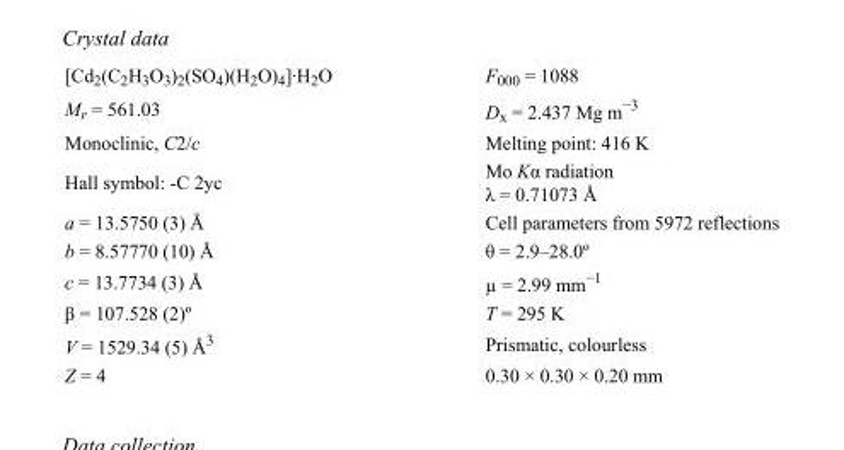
<table><tbody><tr><td>[Cd<sub>2</sub>(C<sub>2</sub>H<sub>3</sub>O<sub>3</sub>)<sub>2</sub>(SO<sub>4</sub>)(H<sub>2</sub>O)<sub>4</sub>]·H<sub>2</sub>O</td><td>F000 = 1088</td></tr><tr><td>M<sub>r</sub> = 561.03</td><td>D<sub>x</sub> = 2.437 Mg m<sup>−3</sup></td></tr><tr><td>Monoclinic, C2/c</td><td>Melting point: 416 K</td></tr><tr><td>Hall symbol: -C 2yc</td><td>Mo Kα radiation λ = 0.71073 Å</td></tr><tr><td>a = 13.5750 (3) Å</td><td>Cell parameters from 5972 reflections</td></tr><tr><td>b = 8.57770 (10) Å</td><td>θ = 2.9–28.0º</td></tr><tr><td>c = 13.7734 (3) Å</td><td>µ = 2.99 mm<sup>−1</sup></td></tr><tr><td>β = 107.528 (2)º</td><td>T = 295 K</td></tr><tr><td>V = 1529.34 (5) Å<sup>3</sup></td><td>Prismatic, colourless</td></tr><tr><td>Z = 4</td><td>0.30 × 0.30 × 0.20 mm</td></tr></tbody></table>